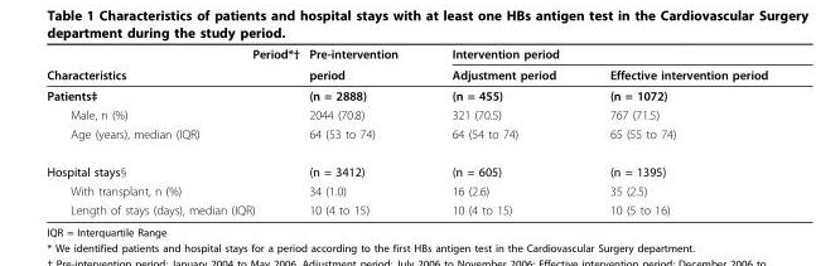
<table><thead><tr><td rowspan="2">Period*† Characteristics</td><td rowspan="2">Pre-intervention period</td><td colspan="2">Intervention period</td></tr><tr><td>Adjustment period</td><td>Effective intervention period</td></tr></thead><tbody><tr><td>Patients‡</td><td>(n = 2888)</td><td>(n = 455)</td><td>(n = 1072)</td></tr><tr><td>Male, n (%)</td><td>2044 (70.8)</td><td>321 (70.5)</td><td>767 (71.5)</td></tr><tr><td>Age (years), median (IQR)</td><td>64 (53 to 74)</td><td>64 (54 to 74)</td><td>65 (55 to 74)</td></tr><tr><td>Hospital stays§</td><td>(n = 3412)</td><td>(n = 605)</td><td>(n = 1395)</td></tr><tr><td>With transplant, n (%)</td><td>34 (1.0)</td><td>16 (2.6)</td><td>35 (2.5)</td></tr><tr><td>Length of stays (days), median (IQR)</td><td>10 (4 to 15)</td><td>10 (4 to 15)</td><td>10 (5 to 16)</td></tr></tbody></table>